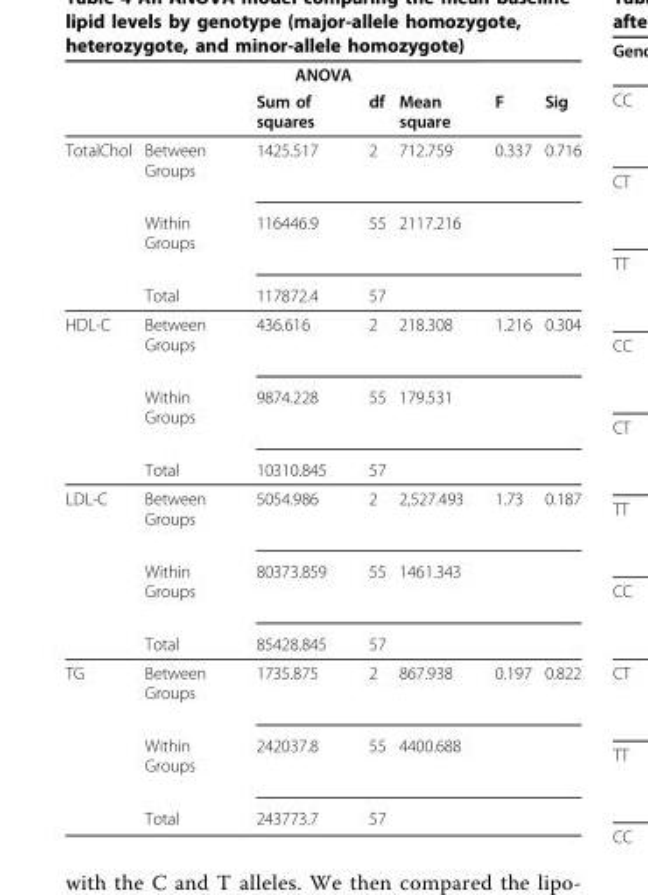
<table><thead><tr><td colspan="7">ANOVA</td></tr><tr><td></td><td></td><td>Sum of squares</td><td>df</td><td>Mean square</td><td>F</td><td>Sig</td></tr></thead><tbody><tr><td rowspan="3">TotalChol</td><td>Between Groups</td><td>1425.517</td><td>2</td><td>712.759</td><td>0.337</td><td>0.716</td></tr><tr><td>Within Groups</td><td>116446.9</td><td>55</td><td>2117.216</td><td></td><td></td></tr><tr><td>Total</td><td>117872.4</td><td>57</td><td></td><td></td><td></td></tr><tr><td rowspan="3">HDL-C</td><td>Between Groups</td><td>436.616</td><td>2</td><td>218.308</td><td>1.216</td><td>0.304</td></tr><tr><td>Within Groups</td><td>9874.228</td><td>55</td><td>179.531</td><td></td><td></td></tr><tr><td>Total</td><td>10310.845</td><td>57</td><td></td><td></td><td></td></tr><tr><td rowspan="3">LDL-C</td><td>Between Groups</td><td>5054.986</td><td>2</td><td>2,527.493</td><td>1.73</td><td>0.187</td></tr><tr><td>Within Groups</td><td>80373.859</td><td>55</td><td>1461.343</td><td></td><td></td></tr><tr><td>Total</td><td>85428.845</td><td>57</td><td></td><td></td><td></td></tr><tr><td rowspan="3">TG</td><td>Between Groups</td><td>1735.875</td><td>2</td><td>867.938</td><td>0.197</td><td>0.822</td></tr><tr><td>Within Groups</td><td>242037.8</td><td>55</td><td>4400.688</td><td></td><td></td></tr><tr><td>Total</td><td>243773.7</td><td>57</td><td></td><td></td><td></td></tr></tbody></table>